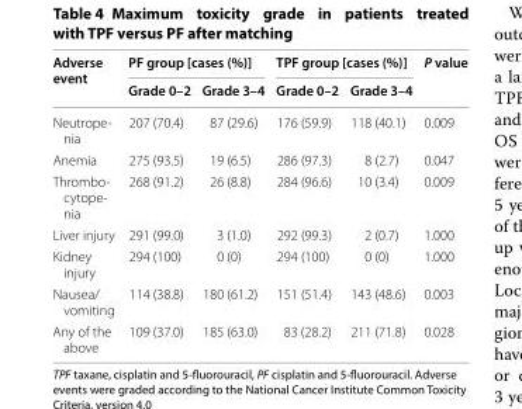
<table><thead><tr><td rowspan="2">Adverse event</td><td colspan="2">PF group [cases (%)]</td><td colspan="2">TPF group [cases (%)]</td><td rowspan="2">P value</td></tr><tr><td>Grade 0–2</td><td>Grade 3–4</td><td>Grade 0–2</td><td>Grade 3–4</td></tr></thead><tbody><tr><td>Neutrope‑ nia</td><td>207 (70.4)</td><td>87 (29.6)</td><td>176 (59.9)</td><td>118 (40.1)</td><td>0.009</td></tr><tr><td>Anemia</td><td>275 (93.5)</td><td>19 (6.5)</td><td>286 (97.3)</td><td>8 (2.7)</td><td>0.047</td></tr><tr><td>Thrombo‑ cytope‑ nia</td><td>268 (91.2)</td><td>26 (8.8)</td><td>284 (96.6)</td><td>10 (3.4)</td><td>0.009</td></tr><tr><td>Liver injury</td><td>291 (99.0)</td><td>3 (1.0)</td><td>292 (99.3)</td><td>2 (0.7)</td><td>1.000</td></tr><tr><td>Kidney injury</td><td>294 (100)</td><td>0 (0)</td><td>294 (100)</td><td>0 (0)</td><td>1.000</td></tr><tr><td>Nausea/ vomiting</td><td>114 (38.8)</td><td>180 (61.2)</td><td>151 (51.4)</td><td>143 (48.6)</td><td>0.003</td></tr><tr><td>Any of the above</td><td>109 (37.0)</td><td>185 (63.0)</td><td>83 (28.2)</td><td>211 (71.8)</td><td>0.028</td></tr></tbody></table>